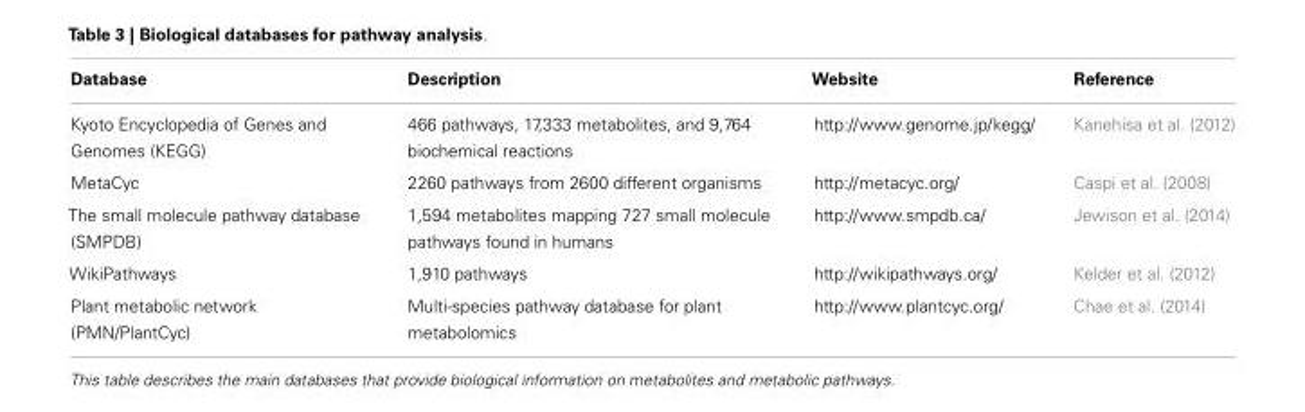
<table><thead><tr><td>Database</td><td>Description</td><td>Website</td><td>Reference</td></tr></thead><tbody><tr><td>Kyoto Encyclopedia of Genes and Genomes (KEGG)</td><td>466 pathways, 17,333 metabolites, and 9,764 biochemical reactions</td><td>http://www.genome.jp/kegg/</td><td>Kanehisa et al. (2012)</td></tr><tr><td>MetaCyc</td><td>2260 pathways from 2600 different organisms</td><td>http://metacyc.org/</td><td>Caspi et al. (2008)</td></tr><tr><td>The small molecule pathway database (SMPDB)</td><td>1,594 metabolites mapping 727 small molecule pathways found in humans</td><td>http://www.smpdb.ca/</td><td>Jewison et al. (2014)</td></tr><tr><td>WikiPathways</td><td>1,910 pathways</td><td>http://wikipathways.org/</td><td>Kelder et al. (2012)</td></tr><tr><td>Plant metabolic network (PMN/PlantCyc)</td><td>Multi-species pathway database for plant metabolomics</td><td>http://www.plantcyc.org/</td><td>Chae et al. (2014)</td></tr></tbody></table>